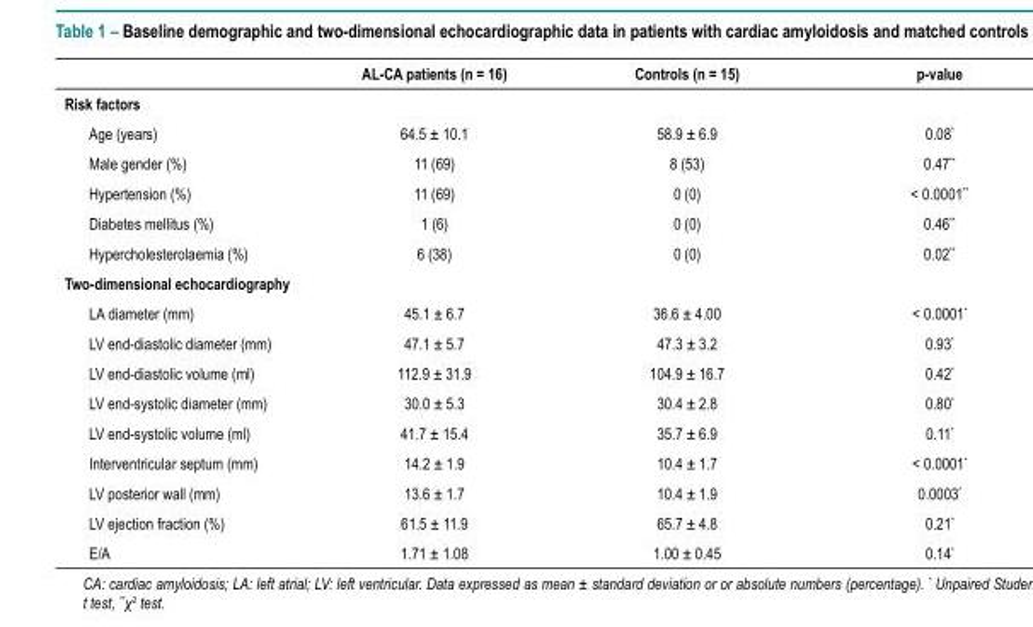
<table><thead><tr><td></td><td>AL-CA patients (n = 16)</td><td>Controls (n = 15)</td><td>p-value</td></tr></thead><tbody><tr><td colspan="4">Risk factors</td></tr><tr><td>Age (years)</td><td>64.5 ± 10.1</td><td>58.9 ± 6.9</td><td>0.08*</td></tr><tr><td>Male gender (%)</td><td>11 (69)</td><td>8 (53)</td><td>0.47**</td></tr><tr><td>Hypertension (%)</td><td>11 (69)</td><td>0 (0)</td><td>&lt; 0.0001**</td></tr><tr><td>Diabetes mellitus (%)</td><td>1 (6)</td><td>0 (0)</td><td>0.46**</td></tr><tr><td>Hypercholesterolaemia (%)</td><td>6 (38)</td><td>0 (0)</td><td>0.02**</td></tr><tr><td colspan="4">Two-dimensional echocardiography</td></tr><tr><td>LA diameter (mm)</td><td>45.1 ± 6.7</td><td>36.6 ± 4.00</td><td>&lt; 0.0001*</td></tr><tr><td>LV end-diastolic diameter (mm)</td><td>47.1 ± 5.7</td><td>47.3 ± 3.2</td><td>0.93*</td></tr><tr><td>LV end-diastolic volume (ml)</td><td>112.9 ± 31.9</td><td>104.9 ± 16.7</td><td>0.42*</td></tr><tr><td>LV end-systolic diameter (mm)</td><td>30.0 ± 5.3</td><td>30.4 ± 2.8</td><td>0.80*</td></tr><tr><td>LV end-systolic volume (ml)</td><td>41.7 ± 15.4</td><td>35.7 ± 6.9</td><td>0.11*</td></tr><tr><td>Interventricular septum (mm)</td><td>14.2 ± 1.9</td><td>10.4 ± 1.7</td><td>&lt; 0.0001*</td></tr><tr><td>LV posterior wall (mm)</td><td>13.6 ± 1.7</td><td>10.4 ± 1.9</td><td>0.0003*</td></tr><tr><td>LV ejection fraction (%)</td><td>61.5 ± 11.9</td><td>65.7 ± 4.8</td><td>0.21*</td></tr><tr><td>E/A</td><td>1.71 ± 1.08</td><td>1.00 ± 0.45</td><td>0.14*</td></tr></tbody></table>